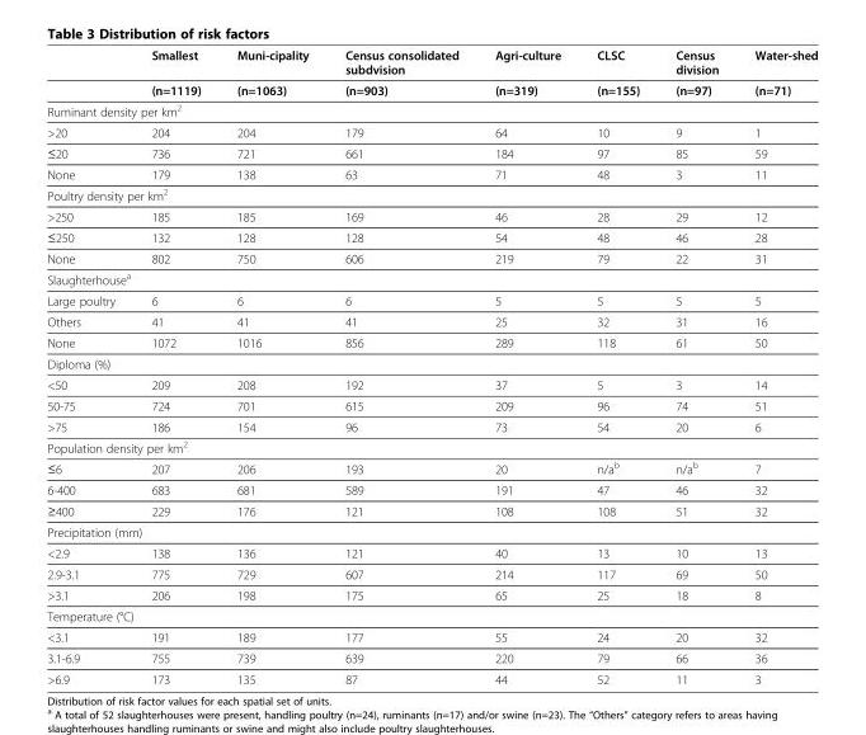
<table><thead><tr><td rowspan="2"></td><td rowspan="2">Smallest (n=1119)</td><td rowspan="2">Muni-cipality (n=1063)</td><td rowspan="2">Census consolidated subdvision (n=903)</td><td rowspan="2">Agri-culture (n=319)</td><td rowspan="2">CLSC (n=155)</td><td rowspan="2">Census division (n=97)</td><td rowspan="2">Water-shed (n=71)</td></tr><tr></tr></thead><tbody><tr><td colspan="8">Ruminant density per km<sup>2</sup></td></tr><tr><td>&gt;20</td><td>204</td><td>204</td><td>179</td><td>64</td><td>10</td><td>9</td><td>1</td></tr><tr><td>≤20</td><td>736</td><td>721</td><td>661</td><td>184</td><td>97</td><td>85</td><td>59</td></tr><tr><td>None</td><td>179</td><td>138</td><td>63</td><td>71</td><td>48</td><td>3</td><td>11</td></tr><tr><td colspan="8">Poultry density per km<sup>2</sup></td></tr><tr><td>&gt;250</td><td>185</td><td>185</td><td>169</td><td>46</td><td>28</td><td>29</td><td>12</td></tr><tr><td>≤250</td><td>132</td><td>128</td><td>128</td><td>54</td><td>48</td><td>46</td><td>28</td></tr><tr><td>None</td><td>802</td><td>750</td><td>606</td><td>219</td><td>79</td><td>22</td><td>31</td></tr><tr><td colspan="8">Slaughterhouse<sup>a</sup></td></tr><tr><td>Large poultry</td><td>6</td><td>6</td><td>6</td><td>5</td><td>5</td><td>5</td><td>5</td></tr><tr><td>Others</td><td>41</td><td>41</td><td>41</td><td>25</td><td>32</td><td>31</td><td>16</td></tr><tr><td>None</td><td>1072</td><td>1016</td><td>856</td><td>289</td><td>118</td><td>61</td><td>50</td></tr><tr><td colspan="8">Diploma (%)</td></tr><tr><td>&lt;50</td><td>209</td><td>208</td><td>192</td><td>37</td><td>5</td><td>3</td><td>14</td></tr><tr><td>50-75</td><td>724</td><td>701</td><td>615</td><td>209</td><td>96</td><td>74</td><td>51</td></tr><tr><td>&gt;75</td><td>186</td><td>154</td><td>96</td><td>73</td><td>54</td><td>20</td><td>6</td></tr><tr><td colspan="8">Population density per km<sup>2</sup></td></tr><tr><td>≤6</td><td>207</td><td>206</td><td>193</td><td>20</td><td>n/a<sup>b</sup></td><td>n/a<sup>b</sup></td><td>7</td></tr><tr><td>6-400</td><td>683</td><td>681</td><td>589</td><td>191</td><td>47</td><td>46</td><td>32</td></tr><tr><td>≥400</td><td>229</td><td>176</td><td>121</td><td>108</td><td>108</td><td>51</td><td>32</td></tr><tr><td colspan="8">Precipitation (mm)</td></tr><tr><td>&lt;2.9</td><td>138</td><td>136</td><td>121</td><td>40</td><td>13</td><td>10</td><td>13</td></tr><tr><td>2.9-3.1</td><td>775</td><td>729</td><td>607</td><td>214</td><td>117</td><td>69</td><td>50</td></tr><tr><td>&gt;3.1</td><td>206</td><td>198</td><td>175</td><td>65</td><td>25</td><td>18</td><td>8</td></tr><tr><td colspan="8">Temperature (°C)</td></tr><tr><td>&lt;3.1</td><td>191</td><td>189</td><td>177</td><td>55</td><td>24</td><td>20</td><td>32</td></tr><tr><td>3.1-6.9</td><td>755</td><td>739</td><td>639</td><td>220</td><td>79</td><td>66</td><td>36</td></tr><tr><td>&gt;6.9</td><td>173</td><td>135</td><td>87</td><td>44</td><td>52</td><td>11</td><td>3</td></tr></tbody></table>